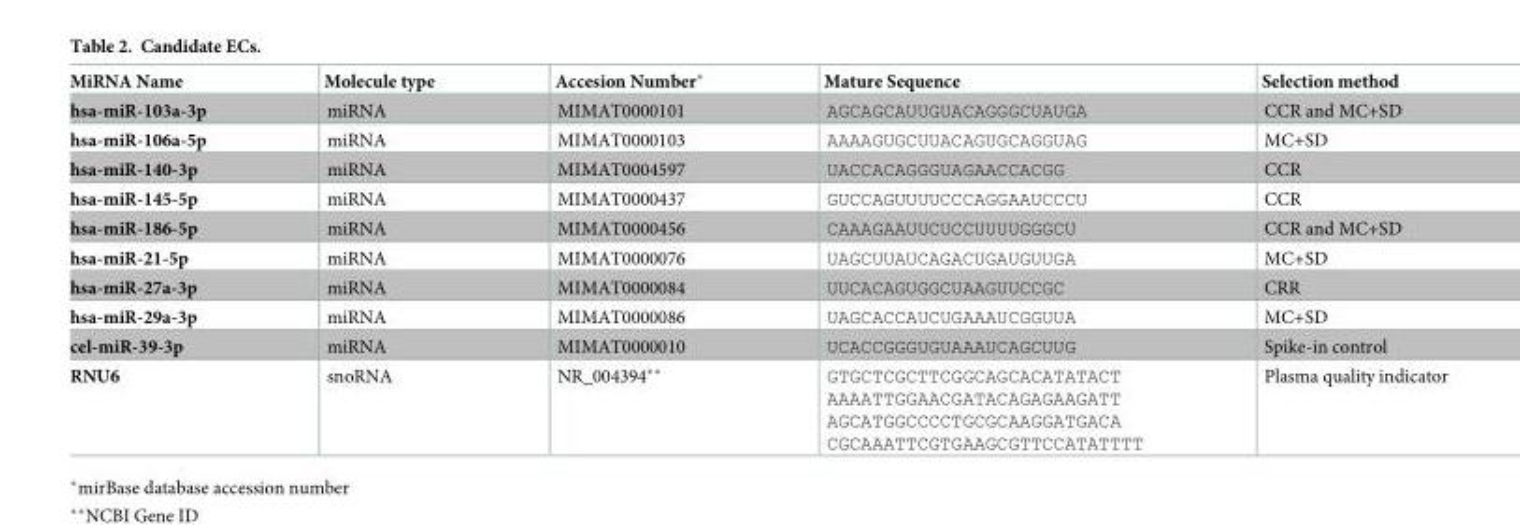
<table><thead><tr><td>MiRNA Name</td><td>Molecule type</td><td>Accesion Number*</td><td>Mature Sequence</td><td>Selection method</td></tr></thead><tbody><tr><td>hsa-miR-103a-3p</td><td>miRNA</td><td>MIMAT0000101</td><td>AGCAGCAUUGUACAGGGCUAUGA</td><td>CCR and MC+SD</td></tr><tr><td>hsa-miR-106a-5p</td><td>miRNA</td><td>MIMAT0000103</td><td>AAAAGUGCUUACAGUGCAGGUAG</td><td>MC+SD</td></tr><tr><td>hsa-miR-140-3p</td><td>miRNA</td><td>MIMAT0004597</td><td>UACCACAGGGUAGAACCACGG</td><td>CCR</td></tr><tr><td>hsa-miR-145-5p</td><td>miRNA</td><td>MIMAT0000437</td><td>GUCCAGUUUUCCCAGGAAUCCCU</td><td>CCR</td></tr><tr><td>hsa-miR-186-5p</td><td>miRNA</td><td>MIMAT0000456</td><td>CAAAGAAUUCUCCUUUUGGGCU</td><td>CCR and MC+SD</td></tr><tr><td>hsa-miR-21-5p</td><td>miRNA</td><td>MIMAT0000076</td><td>UAGCUUAUCAGACUGAUGUUGA</td><td>MC+SD</td></tr><tr><td>hsa-miR-27a-3p</td><td>miRNA</td><td>MIMAT0000084</td><td>UUCACAGUGGCUAAGUUCCGC</td><td>CRR</td></tr><tr><td>hsa-miR-29a-3p</td><td>miRNA</td><td>MIMAT0000086</td><td>UAGCACCAUCUGAAAUCGGUUA</td><td>MC+SD</td></tr><tr><td>cel-miR-39-3p</td><td>miRNA</td><td>MIMAT0000010</td><td>UCACCGGGUGUAAAUCAGCUUG</td><td>Spike-in control</td></tr><tr><td>RNU6</td><td>snoRNA</td><td>NR_004394**</td><td>GTGCTCGCTTCGGCAGCACATATACT AAAATTGGAACGATACAGAGAAGATT AGCATGGCCCCTGCGCAAGGATGACA CGCAAATTCGTGAAGCGTTCCATATTTT</td><td>Plasma quality indicator</td></tr></tbody></table>